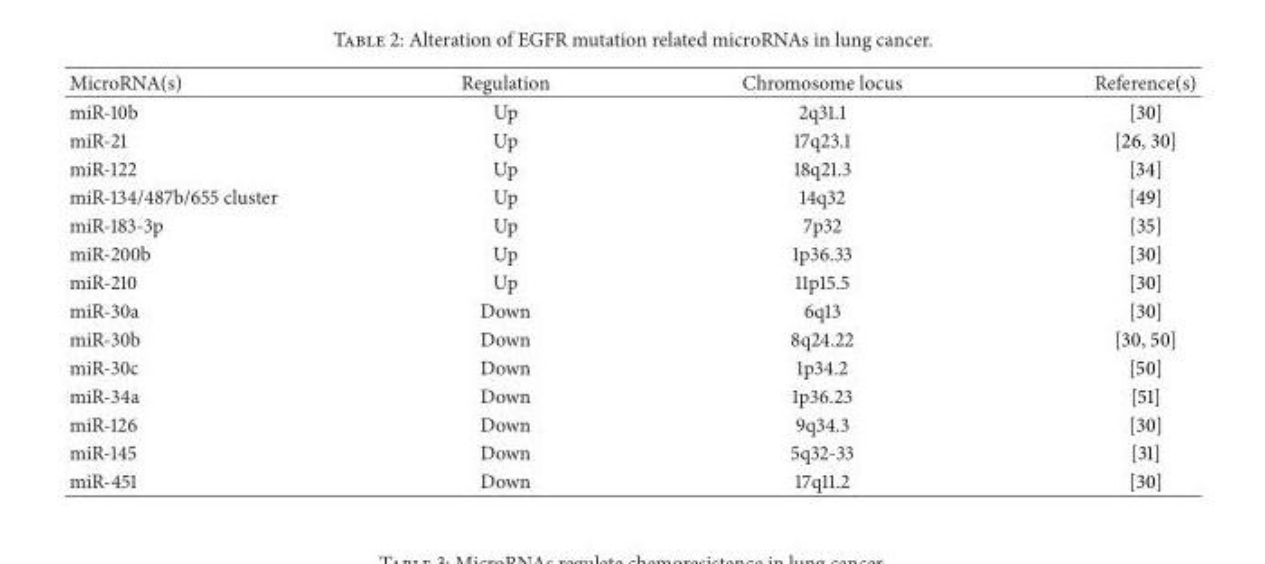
<table><thead><tr><td>MicroRNA(s)</td><td>Regulation</td><td>Chromosome locus</td><td>Reference(s)</td></tr></thead><tbody><tr><td>miR-10b</td><td>Up</td><td>2q31.1</td><td>[30]</td></tr><tr><td>miR-21</td><td>Up</td><td>17q23.1</td><td>[26, 30]</td></tr><tr><td>miR-122</td><td>Up</td><td>18q21.3</td><td>[34]</td></tr><tr><td>miR-134/487b/655 cluster</td><td>Up</td><td>14q32</td><td>[49]</td></tr><tr><td>miR-183-3p</td><td>Up</td><td>7p32</td><td>[35]</td></tr><tr><td>miR-200b</td><td>Up</td><td>1p36.33</td><td>[30]</td></tr><tr><td>miR-210</td><td>Up</td><td>11p15.5</td><td>[30]</td></tr><tr><td>miR-30a</td><td>Down</td><td>6q13</td><td>[30]</td></tr><tr><td>miR-30b</td><td>Down</td><td>8q24.22</td><td>[30, 50]</td></tr><tr><td>miR-30c</td><td>Down</td><td>1p34.2</td><td>[50]</td></tr><tr><td>miR-34a</td><td>Down</td><td>1p36.23</td><td>[51]</td></tr><tr><td>miR-126</td><td>Down</td><td>9q34.3</td><td>[30]</td></tr><tr><td>miR-145</td><td>Down</td><td>5q32-33</td><td>[31]</td></tr><tr><td>miR-451</td><td>Down</td><td>17q11.2</td><td>[30]</td></tr></tbody></table>